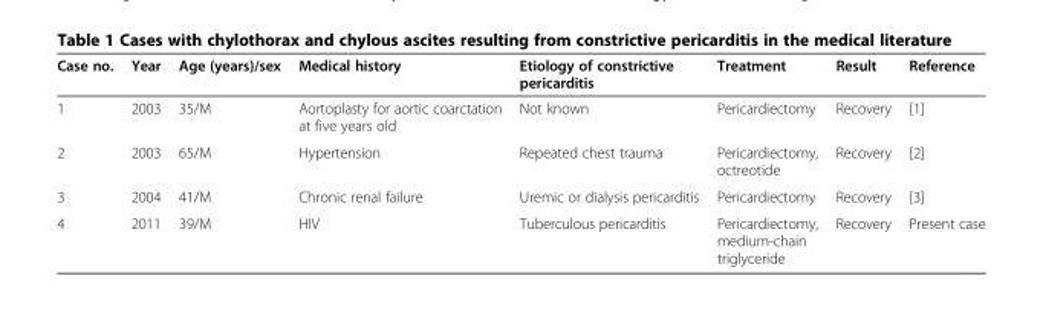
<table><thead><tr><td>Case no.</td><td>Year</td><td>Age (years)/sex</td><td>Medical history</td><td>Etiology of constrictive pericarditis</td><td>Treatment</td><td>Result</td><td>Reference</td></tr></thead><tbody><tr><td>1</td><td>2003</td><td>35/M</td><td>Aortoplasty for aortic coarctation at five years old</td><td>Not known</td><td>Pericardiectomy</td><td>Recovery</td><td>[1]</td></tr><tr><td>2</td><td>2003</td><td>65/M</td><td>Hypertension</td><td>Repeated chest trauma</td><td>Pericardiectomy, octreotide</td><td>Recovery</td><td>[2]</td></tr><tr><td>3</td><td>2004</td><td>41/M</td><td>Chronic renal failure</td><td>Uremic or dialysis pericarditis</td><td>Pericardiectomy</td><td>Recovery</td><td>[3]</td></tr><tr><td>4</td><td>2011</td><td>39/M</td><td>HIV</td><td>Tuberculous pericarditis</td><td>Pericardiectomy, medium-chain triglyceride</td><td>Recovery</td><td>Present case</td></tr></tbody></table>